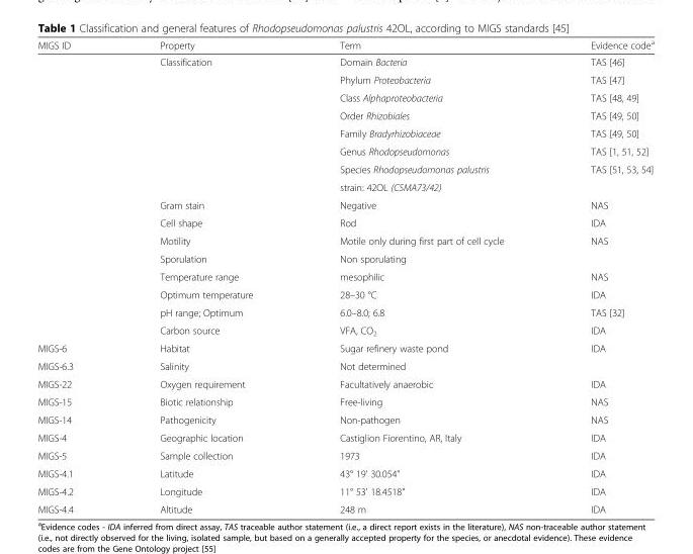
<table><thead><tr><td>MIGS ID</td><td>Property</td><td>Term</td><td>Evidence code<sup>a</sup></td></tr></thead><tbody><tr><td></td><td>Classification</td><td>Domain Bacteria</td><td>TAS [46]</td></tr><tr><td></td><td></td><td>Phylum Proteobacteria</td><td>TAS [47]</td></tr><tr><td></td><td></td><td>Class Alphaproteobacteria</td><td>TAS [48, 49]</td></tr><tr><td></td><td></td><td>Order Rhizobiales</td><td>TAS [49, 50]</td></tr><tr><td></td><td></td><td>Family Bradyrhizobiaceae</td><td>TAS [49, 50]</td></tr><tr><td></td><td></td><td>Genus Rhodopseudomonas</td><td>TAS [1, 51, 52]</td></tr><tr><td></td><td></td><td>Species Rhodopseudomonas palustris</td><td>TAS [51, 53, 54]</td></tr><tr><td></td><td></td><td>strain: 42OL (CSMA73/42)</td><td></td></tr><tr><td></td><td>Gram stain</td><td>Negative</td><td>NAS</td></tr><tr><td></td><td>Cell shape</td><td>Rod</td><td>IDA</td></tr><tr><td></td><td>Motility</td><td>Motile only during first part of cell cycle</td><td>NAS</td></tr><tr><td></td><td>Sporulation</td><td>Non sporulating</td><td></td></tr><tr><td></td><td>Temperature range</td><td>mesophilic</td><td>NAS</td></tr><tr><td></td><td>Optimum temperature</td><td>28–30 °C</td><td>IDA</td></tr><tr><td></td><td>pH range; Optimum</td><td>6.0–8.0; 6.8</td><td>TAS [32]</td></tr><tr><td></td><td>Carbon source</td><td>VFA, CO<sub>2</sub></td><td>IDA</td></tr><tr><td>MIGS-6</td><td>Habitat</td><td>Sugar refinery waste pond</td><td>IDA</td></tr><tr><td>MIGS-6.3</td><td>Salinity</td><td>Not determined</td><td></td></tr><tr><td>MIGS-22</td><td>Oxygen requirement</td><td>Facultatively anaerobic</td><td>IDA</td></tr><tr><td>MIGS-15</td><td>Biotic relationship</td><td>Free-living</td><td>NAS</td></tr><tr><td>MIGS-14</td><td>Pathogenicity</td><td>Non-pathogen</td><td>NAS</td></tr><tr><td>MIGS-4</td><td>Geographic location</td><td>Castiglion Fiorentino, AR, Italy</td><td>IDA</td></tr><tr><td>MIGS-5</td><td>Sample collection</td><td>1973</td><td>IDA</td></tr><tr><td>MIGS-4.1</td><td>Latitude</td><td>43° 19&#x27; 30.054&quot;</td><td>IDA</td></tr><tr><td>MIGS-4.2</td><td>Longitude</td><td>11° 53&#x27; 18.4518&quot;</td><td>IDA</td></tr><tr><td>MIGS-4.4</td><td>Altitude</td><td>248 m</td><td>IDA</td></tr></tbody></table>